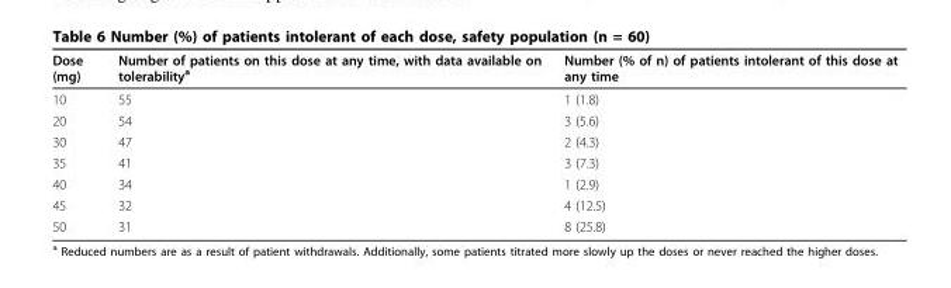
<table><thead><tr><td>Dose (mg)</td><td>Number of patients on this dose at any time, with data available on tolerability<sup>a</sup></td><td>Number (% of n) of patients intolerant of this dose at any time</td></tr></thead><tbody><tr><td>10</td><td>55</td><td>1 (1.8)</td></tr><tr><td>20</td><td>54</td><td>3 (5.6)</td></tr><tr><td>30</td><td>47</td><td>2 (4.3)</td></tr><tr><td>35</td><td>41</td><td>3 (7.3)</td></tr><tr><td>40</td><td>34</td><td>1 (2.9)</td></tr><tr><td>45</td><td>32</td><td>4 (12.5)</td></tr><tr><td>50</td><td>31</td><td>8 (25.8)</td></tr></tbody></table>